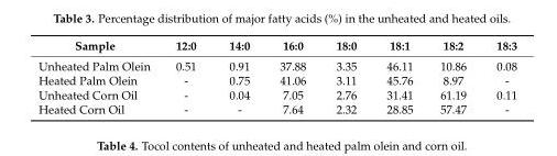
<table><thead><tr><td>Sample</td><td>12:0</td><td>14:0</td><td>16:0</td><td>18:0</td><td>18:1</td><td>18:2</td><td>18:3</td></tr></thead><tbody><tr><td>Unheated Palm Olein</td><td>0.51</td><td>0.91</td><td>37.88</td><td>3.35</td><td>46.11</td><td>10.86</td><td>0.08</td></tr><tr><td>Heated Palm Olein</td><td>-</td><td>0.75</td><td>41.06</td><td>3.11</td><td>45.76</td><td>8.97</td><td>-</td></tr><tr><td>Unheated Corn Oil</td><td>-</td><td>0.04</td><td>7.05</td><td>2.76</td><td>31.41</td><td>61.19</td><td>0.11</td></tr><tr><td>Heated Corn Oil</td><td>-</td><td>-</td><td>7.64</td><td>2.32</td><td>28.85</td><td>57.47</td><td>-</td></tr></tbody></table>